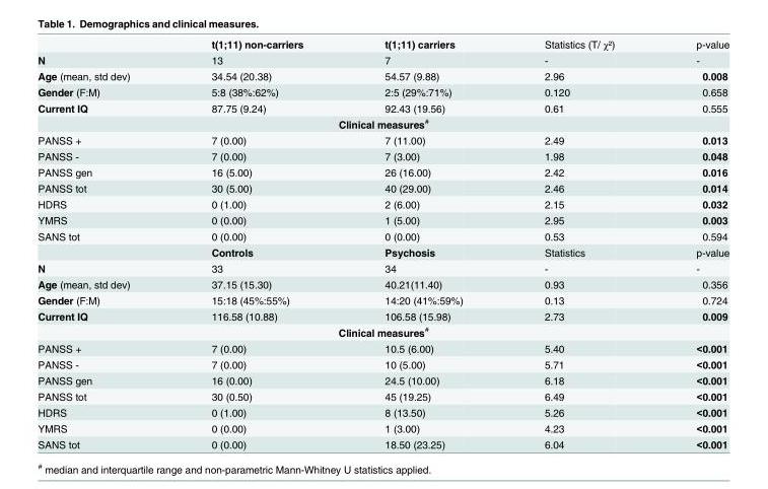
<table><thead><tr><td></td><td>t(1;11) non-carriers</td><td>t(1;11) carriers</td><td>Statistics (T/ χ²)</td><td>p-value</td></tr></thead><tbody><tr><td>N</td><td>13</td><td>7</td><td>-</td><td>-</td></tr><tr><td>Age (mean, std dev)</td><td>34.54 (20.38)</td><td>54.57 (9.88)</td><td>2.96</td><td>0.008</td></tr><tr><td>Gender (F:M)</td><td>5:8 (38%:62%)</td><td>2:5 (29%:71%)</td><td>0.120</td><td>0.658</td></tr><tr><td>Current IQ</td><td>87.75 (9.24)</td><td>92.43 (19.56)</td><td>0.61</td><td>0.555</td></tr><tr><td colspan="5">Clinical measures<sup>#</sup></td></tr><tr><td>PANSS +</td><td>7 (0.00)</td><td>7 (11.00)</td><td>2.49</td><td>0.013</td></tr><tr><td>PANSS -</td><td>7 (0.00)</td><td>7 (3.00)</td><td>1.98</td><td>0.048</td></tr><tr><td>PANSS gen</td><td>16 (5.00)</td><td>26 (16.00)</td><td>2.42</td><td>0.016</td></tr><tr><td>PANSS tot</td><td>30 (5.00)</td><td>40 (29.00)</td><td>2.46</td><td>0.014</td></tr><tr><td>HDRS</td><td>0 (1.00)</td><td>2 (6.00)</td><td>2.15</td><td>0.032</td></tr><tr><td>YMRS</td><td>0 (0.00)</td><td>1 (5.00)</td><td>2.95</td><td>0.003</td></tr><tr><td rowspan="2">SANS tot</td><td>0 (0.00)</td><td>0 (0.00)</td><td>0.53</td><td>0.594</td></tr><tr><td>Controls</td><td>Psychosis</td><td>Statistics</td><td>p-value</td></tr><tr><td>N</td><td>33</td><td>34</td><td>-</td><td>-</td></tr><tr><td>Age (mean, std dev)</td><td>37.15 (15.30)</td><td>40.21(11.40)</td><td>0.93</td><td>0.356</td></tr><tr><td>Gender (F:M)</td><td>15:18 (45%:55%)</td><td>14:20 (41%:59%)</td><td>0.13</td><td>0.724</td></tr><tr><td>Current IQ</td><td>116.58 (10.88)</td><td>106.58 (15.98)</td><td>2.73</td><td>0.009</td></tr><tr><td colspan="5">Clinical measures<sup>#</sup></td></tr><tr><td>PANSS +</td><td>7 (0.00)</td><td>10.5 (6.00)</td><td>5.40</td><td>&lt;0.001</td></tr><tr><td>PANSS -</td><td>7 (0.00)</td><td>10 (5.00)</td><td>5.71</td><td>&lt;0.001</td></tr><tr><td>PANSS gen</td><td>16 (0.00)</td><td>24.5 (10.00)</td><td>6.18</td><td>&lt;0.001</td></tr><tr><td>PANSS tot</td><td>30 (0.50)</td><td>45 (19.25)</td><td>6.49</td><td>&lt;0.001</td></tr><tr><td>HDRS</td><td>0 (1.00)</td><td>8 (13.50)</td><td>5.26</td><td>&lt;0.001</td></tr><tr><td>YMRS</td><td>0 (0.00)</td><td>1 (3.00)</td><td>4.23</td><td>&lt;0.001</td></tr><tr><td>SANS tot</td><td>0 (0.00)</td><td>18.50 (23.25)</td><td>6.04</td><td>&lt;0.001</td></tr></tbody></table>